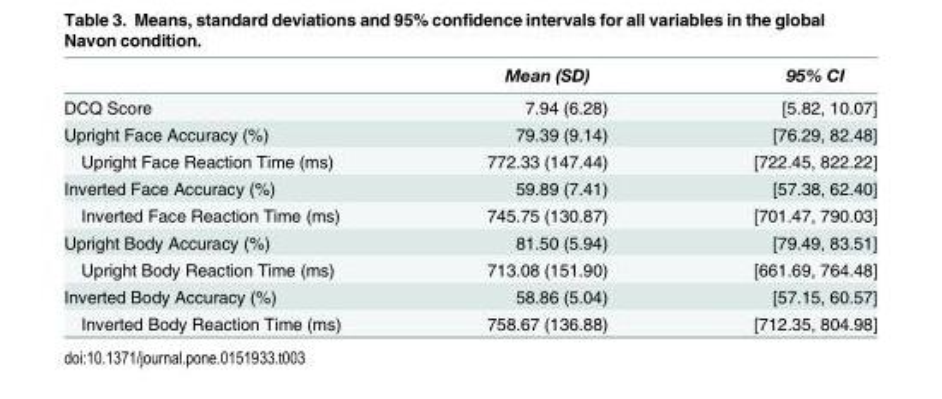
<table><thead><tr><td></td><td>Mean (SD)</td><td>95% CI</td></tr></thead><tbody><tr><td>DCQ Score</td><td>7.94 (6.28)</td><td>[5.82, 10.07]</td></tr><tr><td>Upright Face Accuracy (%)</td><td>79.39 (9.14)</td><td>[76.29, 82.48]</td></tr><tr><td>Upright Face Reaction Time (ms)</td><td>772.33 (147.44)</td><td>[722.45, 822.22]</td></tr><tr><td>Inverted Face Accuracy (%)</td><td>59.89 (7.41)</td><td>[57.38, 62.40]</td></tr><tr><td>Inverted Face Reaction Time (ms)</td><td>745.75 (130.87)</td><td>[701.47, 790.03]</td></tr><tr><td>Upright Body Accuracy (%)</td><td>81.50 (5.94)</td><td>[79.49, 83.51]</td></tr><tr><td>Upright Body Reaction Time (ms)</td><td>713.08 (151.90)</td><td>[661.69, 764.48]</td></tr><tr><td>Inverted Body Accuracy (%)</td><td>58.86 (5.04)</td><td>[57.15, 60.57]</td></tr><tr><td>Inverted Body Reaction Time (ms)</td><td>758.67 (136.88)</td><td>[712.35, 804.98]</td></tr></tbody></table>